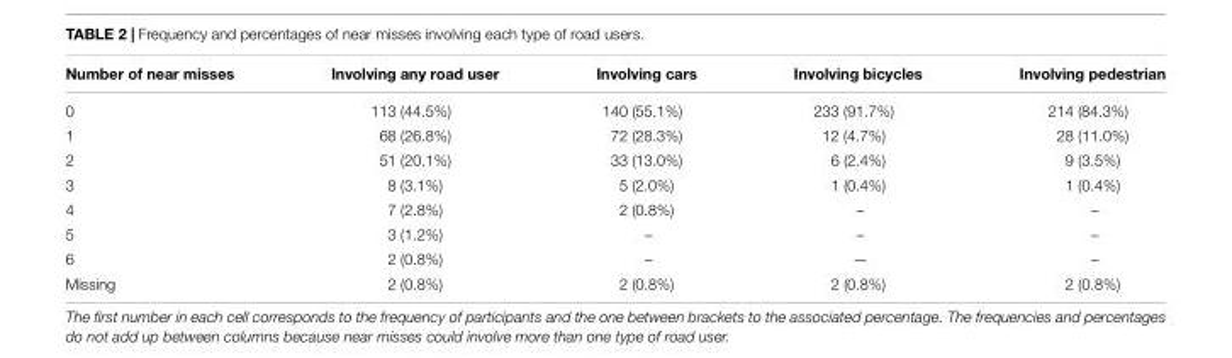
<table><thead><tr><td>Number of near misses</td><td>Involving any road user</td><td>Involving cars</td><td>Involving bicycles</td><td>Involving pedestrian</td></tr></thead><tbody><tr><td>0</td><td>113 (44.5%)</td><td>140 (55.1%)</td><td>233 (91.7%)</td><td>214 (84.3%)</td></tr><tr><td>1</td><td>68 (26.8%)</td><td>72 (28.3%)</td><td>12 (4.7%)</td><td>28 (11.0%)</td></tr><tr><td>2</td><td>51 (20.1%)</td><td>33 (13.0%)</td><td>6 (2.4%)</td><td>9 (3.5%)</td></tr><tr><td>3</td><td>8 (3.1%)</td><td>5 (2.0%)</td><td>1 (0.4%)</td><td>1 (0.4%)</td></tr><tr><td>4</td><td>7 (2.8%)</td><td>2 (0.8%)</td><td>–</td><td>–</td></tr><tr><td>5</td><td>3 (1.2%)</td><td>–</td><td>–</td><td>–</td></tr><tr><td>6</td><td>2 (0.8%)</td><td>–</td><td>—</td><td>–</td></tr><tr><td>Missing</td><td>2 (0.8%)</td><td>2 (0.8%)</td><td>2 (0.8%)</td><td>2 (0.8%)</td></tr></tbody></table>